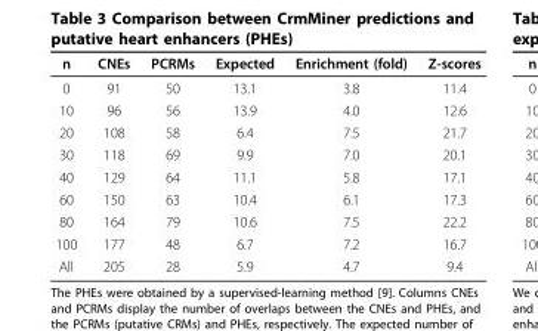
<table><thead><tr><td>n</td><td>CNEs</td><td>PCRMs</td><td>Expected</td><td>Enrichment (fold)</td><td>Z-scores</td></tr></thead><tbody><tr><td>0</td><td>91</td><td>50</td><td>13.1</td><td>3.8</td><td>11.4</td></tr><tr><td>10</td><td>96</td><td>56</td><td>13.9</td><td>4.0</td><td>12.6</td></tr><tr><td>20</td><td>108</td><td>58</td><td>6.4</td><td>7.5</td><td>21.7</td></tr><tr><td>30</td><td>118</td><td>69</td><td>9.9</td><td>7.0</td><td>20.1</td></tr><tr><td>40</td><td>129</td><td>64</td><td>11.1</td><td>5.8</td><td>17.1</td></tr><tr><td>60</td><td>150</td><td>63</td><td>10.4</td><td>6.1</td><td>17.3</td></tr><tr><td>80</td><td>164</td><td>79</td><td>10.6</td><td>7.5</td><td>22.2</td></tr><tr><td>100</td><td>177</td><td>48</td><td>6.7</td><td>7.2</td><td>16.7</td></tr><tr><td>All</td><td>205</td><td>28</td><td>5.9</td><td>4.7</td><td>9.4</td></tr></tbody></table>